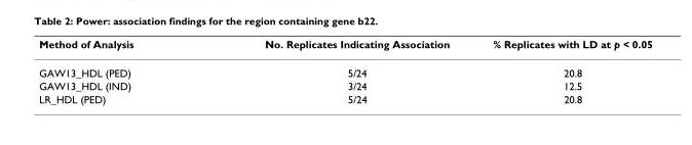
<table><thead><tr><td>Method of Analysis</td><td>No. Replicates Indicating Association</td><td>% Replicates with LD at p &lt; 0.05</td></tr></thead><tbody><tr><td>GAW13_HDL (PED)</td><td>5/24</td><td>20.8</td></tr><tr><td>GAW13_HDL (IND)</td><td>3/24</td><td>12.5</td></tr><tr><td>LR_HDL (PED)</td><td>5/24</td><td>20.8</td></tr></tbody></table>